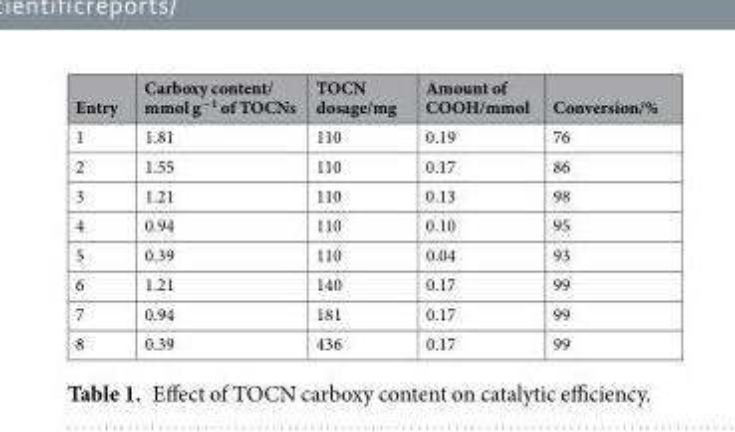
<table><thead><tr><td>Entry</td><td>Carboxy content/ mmol g<sup>−1</sup> of TOCNs</td><td>TOCN dosage/mg</td><td>Amount of COOH/mmol</td><td>Conversion/%</td></tr></thead><tbody><tr><td>1</td><td>1.81</td><td>110</td><td>0.19</td><td>76</td></tr><tr><td>2</td><td>1.55</td><td>110</td><td>0.17</td><td>86</td></tr><tr><td>3</td><td>1.21</td><td>110</td><td>0.13</td><td>98</td></tr><tr><td>4</td><td>0.94</td><td>110</td><td>0.10</td><td>95</td></tr><tr><td>5</td><td>0.39</td><td>110</td><td>0.04</td><td>93</td></tr><tr><td>6</td><td>1.21</td><td>140</td><td>0.17</td><td>99</td></tr><tr><td>7</td><td>0.94</td><td>181</td><td>0.17</td><td>99</td></tr><tr><td>8</td><td>0.39</td><td>436</td><td>0.17</td><td>99</td></tr></tbody></table>